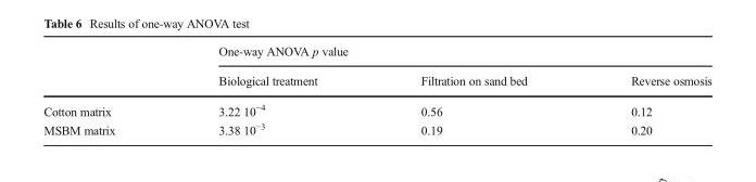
<table><thead><tr><td rowspan="2"></td><td colspan="3">One-way ANOVA p value</td></tr><tr><td>Biological treatment</td><td>Filtration on sand bed</td><td>Reverse osmosis</td></tr></thead><tbody><tr><td>Cotton matrix</td><td>3.22 10<sup>−4</sup></td><td>0.56</td><td>0.12</td></tr><tr><td>MSBM matrix</td><td>3.38 10<sup>−3</sup></td><td>0.19</td><td>0.20</td></tr></tbody></table>